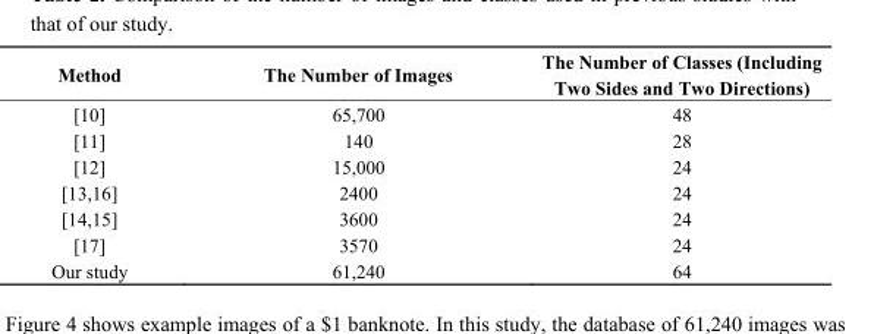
<table><thead><tr><td>Method</td><td>The Number of Images</td><td>The Number of Classes (Including Two Sides and Two Directions)</td></tr></thead><tbody><tr><td>[10]</td><td>65,700</td><td>48</td></tr><tr><td>[11]</td><td>140</td><td>28</td></tr><tr><td>[12]</td><td>15,000</td><td>24</td></tr><tr><td>[13,16]</td><td>2400</td><td>24</td></tr><tr><td>[14,15]</td><td>3600</td><td>24</td></tr><tr><td>[17]</td><td>3570</td><td>24</td></tr><tr><td>Our study</td><td>61,240</td><td>64</td></tr></tbody></table>